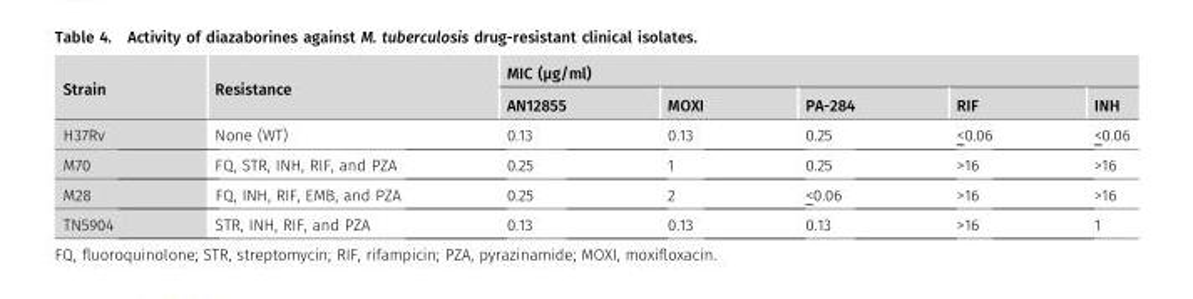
<table><thead><tr><td rowspan="2">Strain</td><td rowspan="2">Resistance</td><td colspan="5">MIC (μg/ml)</td></tr><tr><td>AN12855</td><td>MOXI</td><td>PA-284</td><td>RIF</td><td>INH</td></tr></thead><tbody><tr><td>H37Rv</td><td>None (WT)</td><td>0.13</td><td>0.13</td><td>0.25</td><td>&lt;0.06</td><td>&lt;0.06</td></tr><tr><td>M70</td><td>FQ, STR, INH, RIF, and PZA</td><td>0.25</td><td>1</td><td>0.25</td><td>&gt;16</td><td>&gt;16</td></tr><tr><td>M28</td><td>FQ, INH, RIF, EMB, and PZA</td><td>0.25</td><td>2</td><td>&lt;0.06</td><td>&gt;16</td><td>&gt;16</td></tr><tr><td>TN5904</td><td>STR, INH, RIF, and PZA</td><td>0.13</td><td>0.13</td><td>0.13</td><td>&gt;16</td><td>1</td></tr></tbody></table>